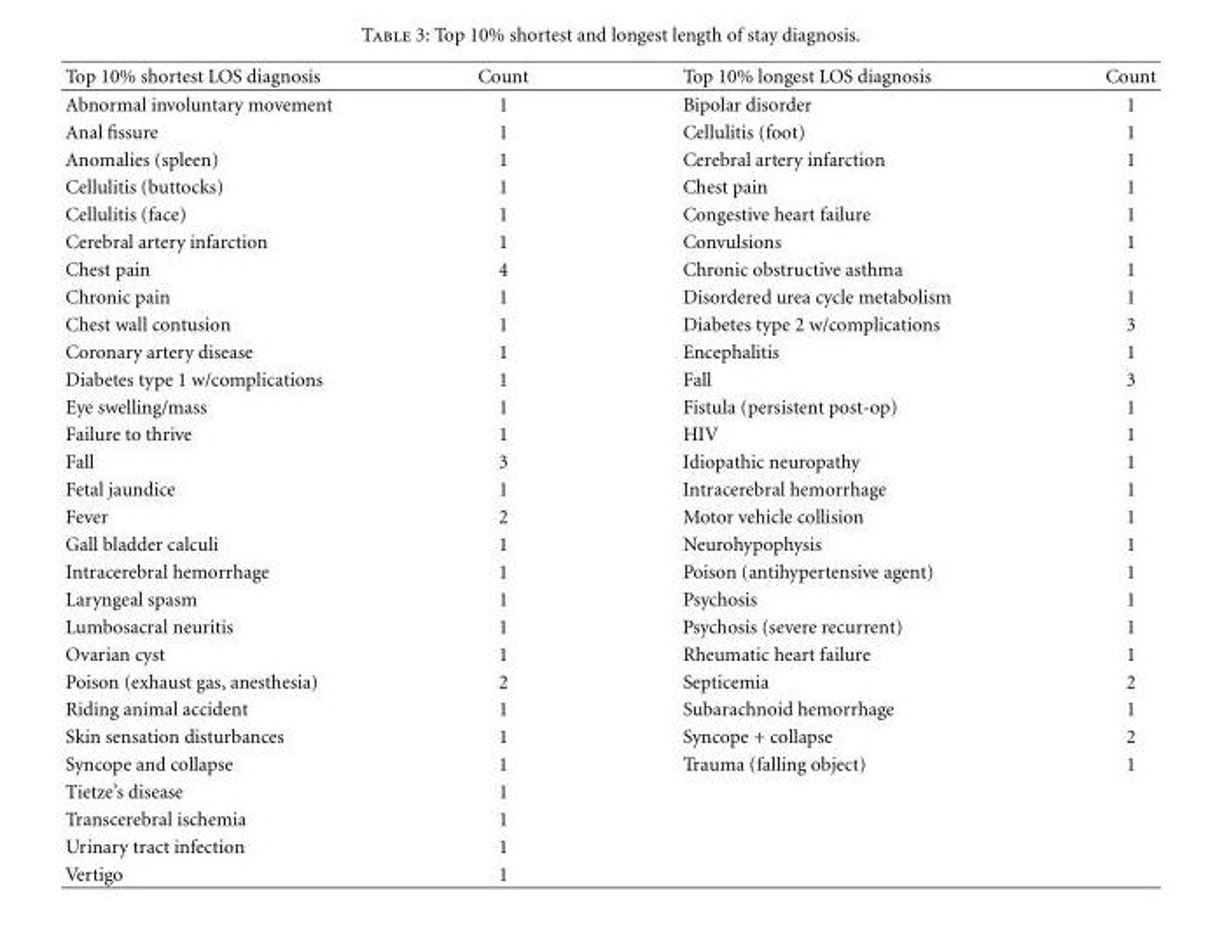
<table><thead><tr><td>Top 10% shortest LOS diagnosis</td><td>Count</td><td>Top 10% longest LOS diagnosis</td><td>Count</td></tr></thead><tbody><tr><td>Abnormal involuntary movement</td><td>1</td><td>Bipolar disorder</td><td>1</td></tr><tr><td>Anal fissure</td><td>1</td><td>Cellulitis (foot)</td><td>1</td></tr><tr><td>Anomalies (spleen)</td><td>1</td><td>Cerebral artery infarction</td><td>1</td></tr><tr><td>Cellulitis (buttocks)</td><td>1</td><td>Chest pain</td><td>1</td></tr><tr><td>Cellulitis (face)</td><td>1</td><td>Congestive heart failure</td><td>1</td></tr><tr><td>Cerebral artery infarction</td><td>1</td><td>Convulsions</td><td>1</td></tr><tr><td>Chest pain</td><td>4</td><td>Chronic obstructive asthma</td><td>1</td></tr><tr><td>Chronic pain</td><td>1</td><td>Disordered urea cycle metabolism</td><td>1</td></tr><tr><td>Chest wall contusion</td><td>1</td><td>Diabetes type 2 w/complications</td><td>3</td></tr><tr><td>Coronary artery disease</td><td>1</td><td>Encephalitis</td><td>1</td></tr><tr><td>Diabetes type 1 w/complications</td><td>1</td><td>Fall</td><td>3</td></tr><tr><td>Eye swelling/mass</td><td>1</td><td>Fistula (persistent post-op)</td><td>1</td></tr><tr><td>Failure to thrive</td><td>1</td><td>HIV</td><td>1</td></tr><tr><td>Fall</td><td>3</td><td>Idiopathic neuropathy</td><td>1</td></tr><tr><td>Fetal jaundice</td><td>1</td><td>Intracerebral hemorrhage</td><td>1</td></tr><tr><td>Fever</td><td>2</td><td>Motor vehicle collision</td><td>1</td></tr><tr><td>Gall bladder calculi</td><td>1</td><td>Neurohypophysis</td><td>1</td></tr><tr><td>Intracerebral hemorrhage</td><td>1</td><td>Poison (antihypertensive agent)</td><td>1</td></tr><tr><td>Laryngeal spasm</td><td>1</td><td>Psychosis</td><td>1</td></tr><tr><td>Lumbosacral neuritis</td><td>1</td><td>Psychosis (severe recurrent)</td><td>1</td></tr><tr><td>Ovarian cyst</td><td>1</td><td>Rheumatic heart failure</td><td>1</td></tr><tr><td>Poison (exhaust gas, anesthesia)</td><td>2</td><td>Septicemia</td><td>2</td></tr><tr><td>Riding animal accident</td><td>1</td><td>Subarachnoid hemorrhage</td><td>1</td></tr><tr><td>Skin sensation disturbances</td><td>1</td><td>Syncope + collapse</td><td>2</td></tr><tr><td>Syncope and collapse</td><td>1</td><td>Trauma (falling object)</td><td>1</td></tr><tr><td>Tietze’s disease</td><td>1</td><td></td><td></td></tr><tr><td>Transcerebral ischemia</td><td>1</td><td></td><td></td></tr><tr><td>Urinary tract infection</td><td>1</td><td></td><td></td></tr><tr><td>Vertigo</td><td>1</td><td></td><td></td></tr></tbody></table>